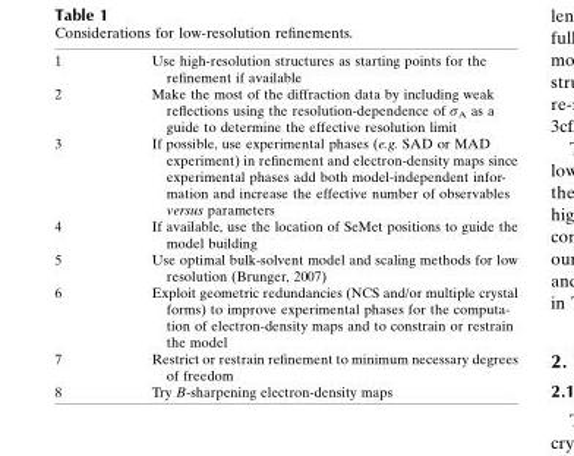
<table><tbody><tr><td>1</td><td>Use high-resolution structures as starting points for the refinement if available</td></tr><tr><td>2</td><td>Make the most of the diffraction data by including weak reflections using the resolution-dependence of σ<sub>A</sub> as a guide to determine the effective resolution limit</td></tr><tr><td>3</td><td>If possible, use experimental phases (e.g. SAD or MAD experiment) in refinement and electron-density maps since experimental phases add both model-independent infor- mation and increase the effective number of observables versus parameters</td></tr><tr><td>4</td><td>If available, use the location of SeMet positions to guide the model building</td></tr><tr><td>5</td><td>Use optimal bulk-solvent model and scaling methods for low resolution (Brunger, 2007)</td></tr><tr><td>6</td><td>Exploit geometric redundancies (NCS and/or multiple crystal forms) to improve experimental phases for the computa- tion of electron-density maps and to constrain or restrain the model</td></tr><tr><td>7</td><td>Restrict or restrain refinement to minimum necessary degrees of freedom</td></tr><tr><td>8</td><td>Try B-sharpening electron-density maps</td></tr></tbody></table>